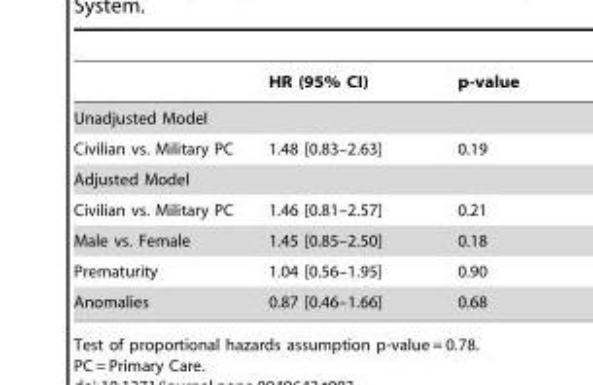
<table><thead><tr><td></td><td>HR (95% CI)</td><td>p-value</td></tr></thead><tbody><tr><td colspan="3">Unadjusted Model</td></tr><tr><td>Civilian vs. Military PC</td><td>1.48 [0.83–2.63]</td><td>0.19</td></tr><tr><td colspan="3">Adjusted Model</td></tr><tr><td>Civilian vs. Military PC</td><td>1.46 [0.81–2.57]</td><td>0.21</td></tr><tr><td>Male vs. Female</td><td>1.45 [0.85–2.50]</td><td>0.18</td></tr><tr><td>Prematurity</td><td>1.04 [0.56–1.95]</td><td>0.90</td></tr><tr><td>Anomalies</td><td>0.87 [0.46–1.66]</td><td>0.68</td></tr></tbody></table>